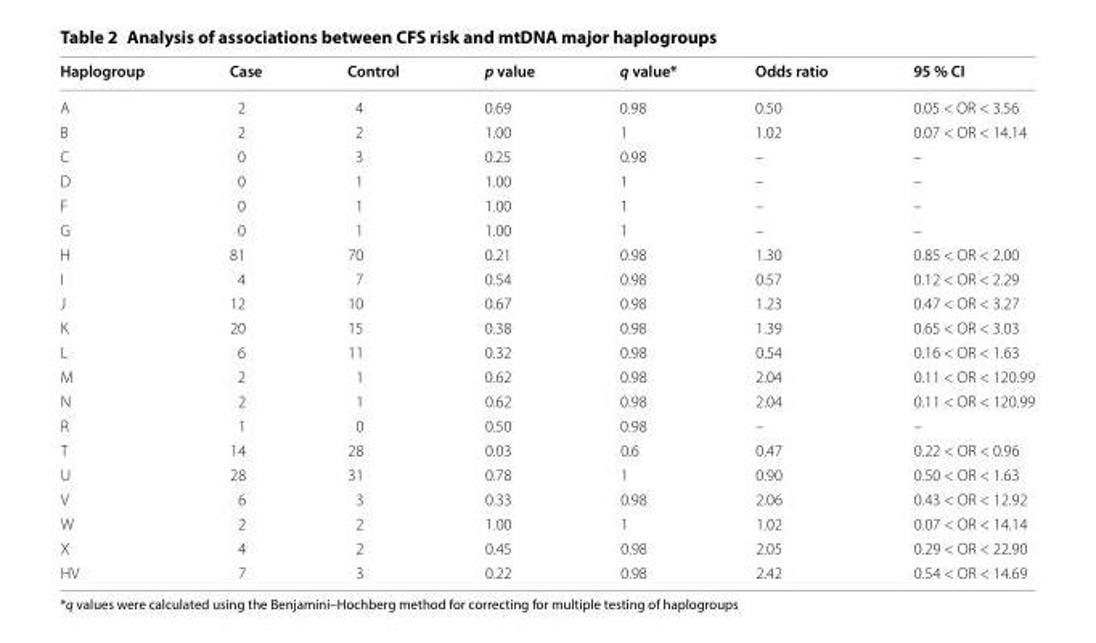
<table><thead><tr><td>Haplogroup</td><td>Case</td><td>Control</td><td>p value</td><td>q value*</td><td>Odds ratio</td><td>95 % CI</td></tr></thead><tbody><tr><td>A</td><td>2</td><td>4</td><td>0.69</td><td>0.98</td><td>0.50</td><td>0.05 &lt; OR &lt; 3.56</td></tr><tr><td>B</td><td>2</td><td>2</td><td>1.00</td><td>1</td><td>1.02</td><td>0.07 &lt; OR &lt; 14.14</td></tr><tr><td>C</td><td>0</td><td>3</td><td>0.25</td><td>0.98</td><td>–</td><td>–</td></tr><tr><td>D</td><td>0</td><td>1</td><td>1.00</td><td>1</td><td>–</td><td>–</td></tr><tr><td>F</td><td>0</td><td>1</td><td>1.00</td><td>1</td><td>–</td><td>–</td></tr><tr><td>G</td><td>0</td><td>1</td><td>1.00</td><td>1</td><td>–</td><td>–</td></tr><tr><td>H</td><td>81</td><td>70</td><td>0.21</td><td>0.98</td><td>1.30</td><td>0.85 &lt; OR &lt; 2.00</td></tr><tr><td>I</td><td>4</td><td>7</td><td>0.54</td><td>0.98</td><td>0.57</td><td>0.12 &lt; OR &lt; 2.29</td></tr><tr><td>J</td><td>12</td><td>10</td><td>0.67</td><td>0.98</td><td>1.23</td><td>0.47 &lt; OR &lt; 3.27</td></tr><tr><td>K</td><td>20</td><td>15</td><td>0.38</td><td>0.98</td><td>1.39</td><td>0.65 &lt; OR &lt; 3.03</td></tr><tr><td>L</td><td>6</td><td>11</td><td>0.32</td><td>0.98</td><td>0.54</td><td>0.16 &lt; OR &lt; 1.63</td></tr><tr><td>M</td><td>2</td><td>1</td><td>0.62</td><td>0.98</td><td>2.04</td><td>0.11 &lt; OR &lt; 120.99</td></tr><tr><td>N</td><td>2</td><td>1</td><td>0.62</td><td>0.98</td><td>2.04</td><td>0.11 &lt; OR &lt; 120.99</td></tr><tr><td>R</td><td>1</td><td>0</td><td>0.50</td><td>0.98</td><td>–</td><td>–</td></tr><tr><td>T</td><td>14</td><td>28</td><td>0.03</td><td>0.6</td><td>0.47</td><td>0.22 &lt; OR &lt; 0.96</td></tr><tr><td>U</td><td>28</td><td>31</td><td>0.78</td><td>1</td><td>0.90</td><td>0.50 &lt; OR &lt; 1.63</td></tr><tr><td>V</td><td>6</td><td>3</td><td>0.33</td><td>0.98</td><td>2.06</td><td>0.43 &lt; OR &lt; 12.92</td></tr><tr><td>W</td><td>2</td><td>2</td><td>1.00</td><td>1</td><td>1.02</td><td>0.07 &lt; OR &lt; 14.14</td></tr><tr><td>X</td><td>4</td><td>2</td><td>0.45</td><td>0.98</td><td>2.05</td><td>0.29 &lt; OR &lt; 22.90</td></tr><tr><td>HV</td><td>7</td><td>3</td><td>0.22</td><td>0.98</td><td>2.42</td><td>0.54 &lt; OR &lt; 14.69</td></tr></tbody></table>